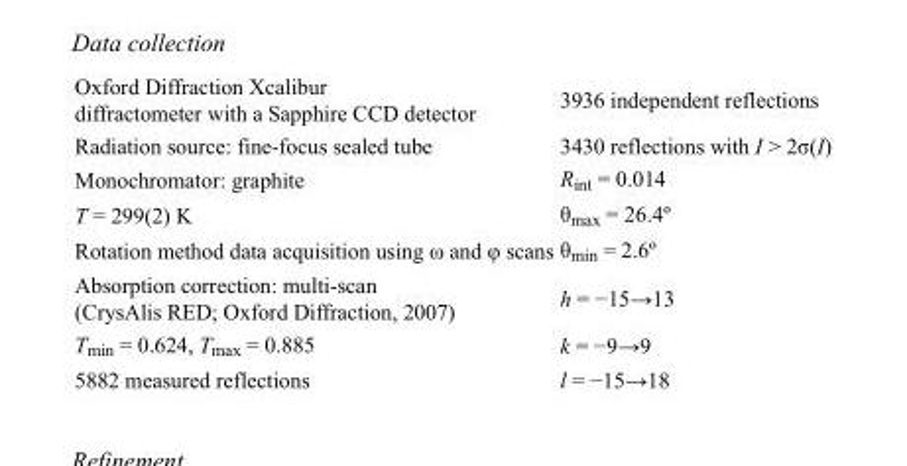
<table><tbody><tr><td>Oxford Diffraction Xcalibur diffractometer with a Sapphire CCD detector</td><td>3936 independent reflections</td></tr><tr><td>Radiation source: fine-focus sealed tube</td><td>3430 reflections with I &gt; 2σ(I)</td></tr><tr><td>Monochromator: graphite</td><td>R<sub>int</sub> = 0.014</td></tr><tr><td>T = 299(2) K</td><td>θ<sub>max</sub> = 26.4º</td></tr><tr><td>Rotation method data acquisition using ω and φ scans</td><td>θ<sub>min</sub> = 2.6º</td></tr><tr><td>Absorption correction: multi-scan (CrysAlis RED; Oxford Diffraction, 2007)</td><td>h = −15→13</td></tr><tr><td>T<sub>min</sub> = 0.624, T<sub>max</sub> = 0.885</td><td>k = −9→9</td></tr><tr><td>5882 measured reflections</td><td>l = −15→18</td></tr></tbody></table>